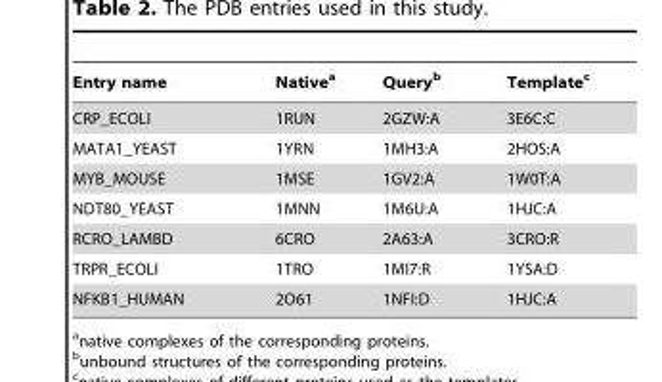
<table><thead><tr><td>Entry name</td><td>Native<sup>a</sup></td><td>Query<sup>b</sup></td><td>Template<sup>c</sup></td></tr></thead><tbody><tr><td>CRP_ECOLI</td><td>1RUN</td><td>2GZW:A</td><td>3E6C:C</td></tr><tr><td>MATA1_YEAST</td><td>1YRN</td><td>1MH3:A</td><td>2HOS:A</td></tr><tr><td>MYB_MOUSE</td><td>1MSE</td><td>1GV2:A</td><td>1W0T:A</td></tr><tr><td>NDT80_YEAST</td><td>1MNN</td><td>1M6U:A</td><td>1HJC:A</td></tr><tr><td>RCRO_LAMBD</td><td>6CRO</td><td>2A63:A</td><td>3CRO:R</td></tr><tr><td>TRPR_ECOLI</td><td>1TRO</td><td>1MI7:R</td><td>1YSA:D</td></tr><tr><td>NFKB1_HUMAN</td><td>2O61</td><td>1NFI:D</td><td>1HJC:A</td></tr></tbody></table>